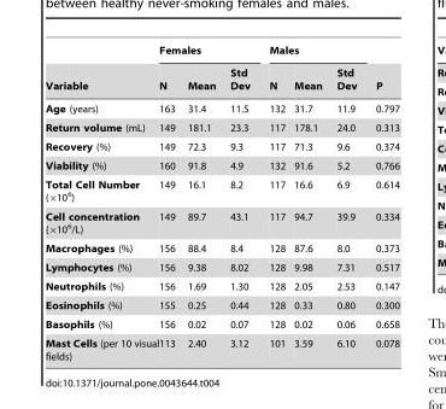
<table><thead><tr><td rowspan="2">Variable</td><td colspan="3">Females</td><td colspan="3">Males</td><td rowspan="2">P</td></tr><tr><td>N</td><td>Mean</td><td>Std Dev</td><td>N</td><td>Mean</td><td>Std Dev</td></tr></thead><tbody><tr><td>Age (years)</td><td>163</td><td>31.4</td><td>11.5</td><td>132</td><td>31.7</td><td>11.9</td><td>0.797</td></tr><tr><td>Return volume (mL)</td><td>149</td><td>181.1</td><td>23.3</td><td>117</td><td>178.1</td><td>24.0</td><td>0.313</td></tr><tr><td>Recovery (%)</td><td>149</td><td>72.3</td><td>9.3</td><td>117</td><td>71.3</td><td>9.6</td><td>0.374</td></tr><tr><td>Viability (%)</td><td>160</td><td>91.8</td><td>4.9</td><td>132</td><td>91.6</td><td>5.2</td><td>0.766</td></tr><tr><td>Total Cell Number (×10<sup>6</sup>)</td><td>149</td><td>16.1</td><td>8.2</td><td>117</td><td>16.6</td><td>6.9</td><td>0.614</td></tr><tr><td>Cell concentration (×10<sup>6</sup>/L)</td><td>149</td><td>89.7</td><td>43.1</td><td>117</td><td>94.7</td><td>39.9</td><td>0.334</td></tr><tr><td>Macrophages (%)</td><td>156</td><td>88.4</td><td>8.4</td><td>128</td><td>87.6</td><td>8.0</td><td>0.373</td></tr><tr><td>Lymphocytes (%)</td><td>156</td><td>9.38</td><td>8.02</td><td>128</td><td>9.98</td><td>7.31</td><td>0.517</td></tr><tr><td>Neutrophils (%)</td><td>156</td><td>1.69</td><td>1.30</td><td>128</td><td>2.05</td><td>2.53</td><td>0.147</td></tr><tr><td>Eosinophils (%)</td><td>155</td><td>0.25</td><td>0.44</td><td>128</td><td>0.33</td><td>0.80</td><td>0.300</td></tr><tr><td>Basophils (%)</td><td>156</td><td>0.02</td><td>0.07</td><td>128</td><td>0.02</td><td>0.06</td><td>0.658</td></tr><tr><td>Mast Cells (per 10 visual fields)</td><td>113</td><td>2.40</td><td>3.12</td><td>101</td><td>3.59</td><td>6.10</td><td>0.078</td></tr></tbody></table>